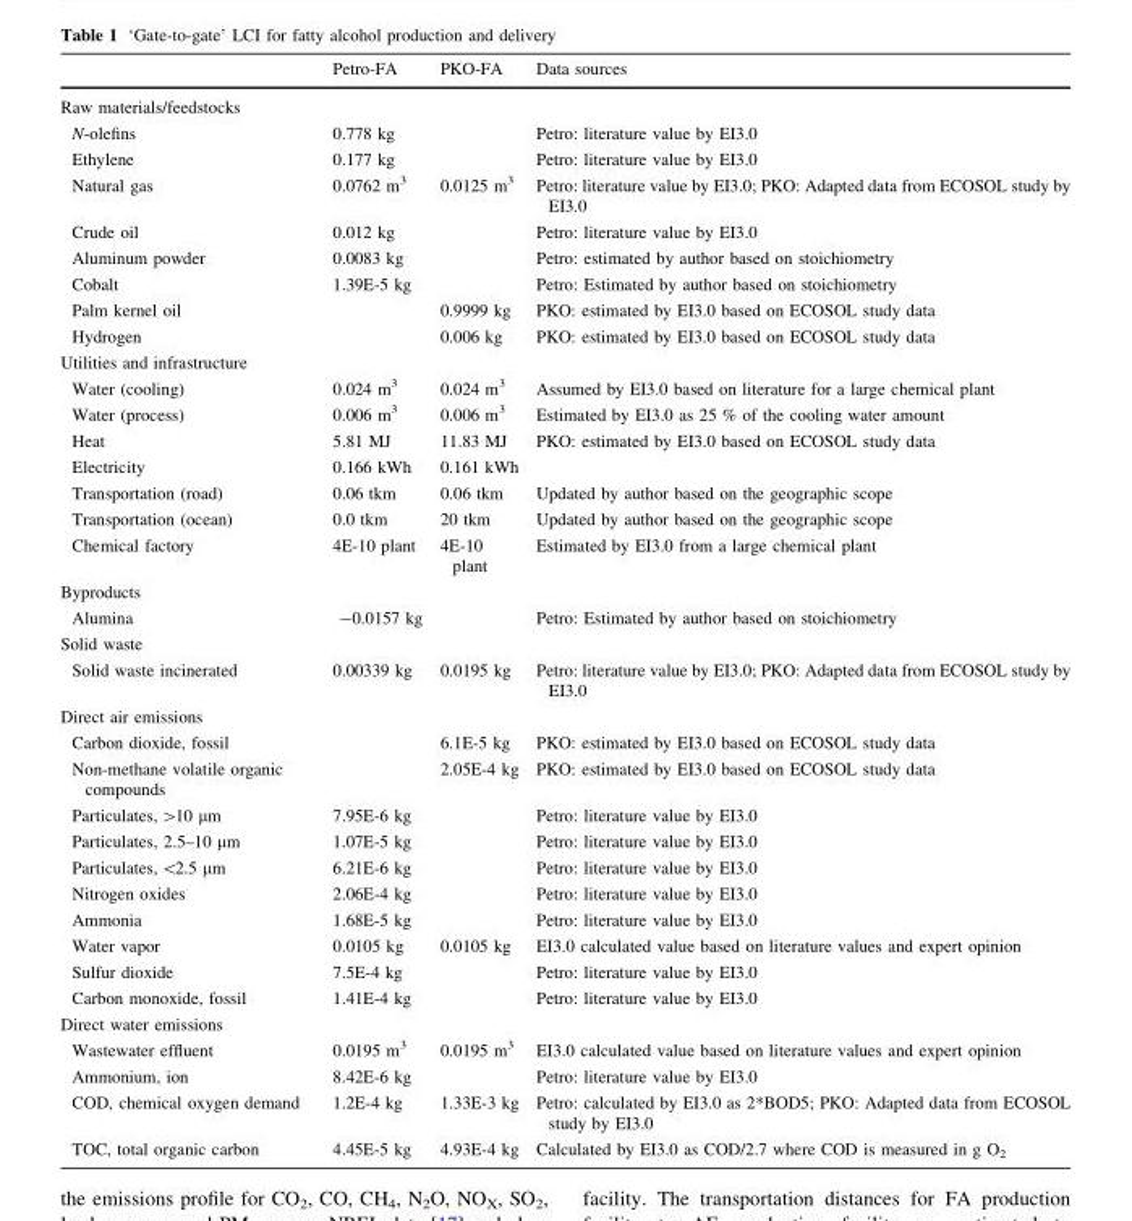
<table><thead><tr><td></td><td>Petro-FA</td><td>PKO-FA</td><td>Data sources</td></tr></thead><tbody><tr><td colspan="4">Raw materials/feedstocks</td></tr><tr><td>N-olefins</td><td>0.778 kg</td><td></td><td>Petro: literature value by EI3.0</td></tr><tr><td>Ethylene</td><td>0.177 kg</td><td></td><td>Petro: literature value by EI3.0</td></tr><tr><td>Natural gas</td><td>0.0762 m<sup>3</sup></td><td>0.0125 m<sup>3</sup></td><td>Petro: literature value by EI3.0; PKO: Adapted data from ECOSOL study by EI3.0</td></tr><tr><td>Crude oil</td><td>0.012 kg</td><td></td><td>Petro: literature value by EI3.0</td></tr><tr><td>Aluminum powder</td><td>0.0083 kg</td><td></td><td>Petro: estimated by author based on stoichiometry</td></tr><tr><td>Cobalt</td><td>1.39E-5 kg</td><td></td><td>Petro: Estimated by author based on stoichiometry</td></tr><tr><td>Palm kernel oil</td><td></td><td>0.9999 kg</td><td>PKO: estimated by EI3.0 based on ECOSOL study data</td></tr><tr><td>Hydrogen</td><td></td><td>0.006 kg</td><td>PKO: estimated by EI3.0 based on ECOSOL study data</td></tr><tr><td colspan="4">Utilities and infrastructure</td></tr><tr><td>Water (cooling)</td><td>0.024 m<sup>3</sup></td><td>0.024 m<sup>3</sup></td><td>Assumed by EI3.0 based on literature for a large chemical plant</td></tr><tr><td>Water (process)</td><td>0.006 m<sup>3</sup></td><td>0.006 m<sup>3</sup></td><td>Estimated by EI3.0 as 25 % of the cooling water amount</td></tr><tr><td>Heat</td><td>5.81 MJ</td><td>11.83 MJ</td><td>PKO: estimated by EI3.0 based on ECOSOL study data</td></tr><tr><td>Electricity</td><td>0.166 kWh</td><td>0.161 kWh</td><td></td></tr><tr><td>Transportation (road)</td><td>0.06 tkm</td><td>0.06 tkm</td><td>Updated by author based on the geographic scope</td></tr><tr><td>Transportation (ocean)</td><td>0.0 tkm</td><td>20 tkm</td><td>Updated by author based on the geographic scope</td></tr><tr><td>Chemical factory</td><td>4E-10 plant</td><td>4E-10 plant</td><td>Estimated by EI3.0 from a large chemical plant</td></tr><tr><td colspan="4">Byproducts</td></tr><tr><td>Alumina</td><td>-0.0157 kg</td><td></td><td>Petro: Estimated by author based on stoichiometry</td></tr><tr><td colspan="4">Solid waste</td></tr><tr><td>Solid waste incinerated</td><td>0.00339 kg</td><td>0.0195 kg</td><td>Petro: literature value by EI3.0; PKO: Adapted data from ECOSOL study by EI3.0</td></tr><tr><td colspan="4">Direct air emissions</td></tr><tr><td>Carbon dioxide, fossil</td><td></td><td>6.1E-5 kg</td><td>PKO: estimated by EI3.0 based on ECOSOL study data</td></tr><tr><td>Non-methane volatile organic compounds</td><td></td><td>2.05E-4 kg</td><td>PKO: estimated by EI3.0 based on ECOSOL study data</td></tr><tr><td>Particulates, &gt;10 µm</td><td>7.95E-6 kg</td><td></td><td>Petro: literature value by EI3.0</td></tr><tr><td>Particulates, 2.5–10 µm</td><td>1.07E-5 kg</td><td></td><td>Petro: literature value by EI3.0</td></tr><tr><td>Particulates, &lt;2.5 µm</td><td>6.21E-6 kg</td><td></td><td>Petro: literature value by EI3.0</td></tr><tr><td>Nitrogen oxides</td><td>2.06E-4 kg</td><td></td><td>Petro: literature value by EI3.0</td></tr><tr><td>Ammonia</td><td>1.68E-5 kg</td><td></td><td>Petro: literature value by EI3.0</td></tr><tr><td>Water vapor</td><td>0.0105 kg</td><td>0.0105 kg</td><td>EI3.0 calculated value based on literature values and expert opinion</td></tr><tr><td>Sulfur dioxide</td><td>7.5E-4 kg</td><td></td><td>Petro: literature value by EI3.0</td></tr><tr><td>Carbon monoxide, fossil</td><td>1.41E-4 kg</td><td></td><td>Petro: literature value by EI3.0</td></tr><tr><td colspan="4">Direct water emissions</td></tr><tr><td>Wastewater effluent</td><td>0.0195 m<sup>3</sup></td><td>0.0195 m<sup>3</sup></td><td>EI3.0 calculated value based on literature values and expert opinion</td></tr><tr><td>Ammonium, ion</td><td>8.42E-6 kg</td><td></td><td>Petro: literature value by EI3.0</td></tr><tr><td>COD, chemical oxygen demand</td><td>1.2E-4 kg</td><td>1.33E-3 kg</td><td>Petro: calculated by EI3.0 as 2*BOD5; PKO: Adapted data from ECOSOL study by EI3.0</td></tr><tr><td>TOC, total organic carbon</td><td>4.45E-5 kg</td><td>4.93E-4 kg</td><td>Calculated by EI3.0 as COD/2.7 where COD is measured in g O<sub>2</sub></td></tr></tbody></table>